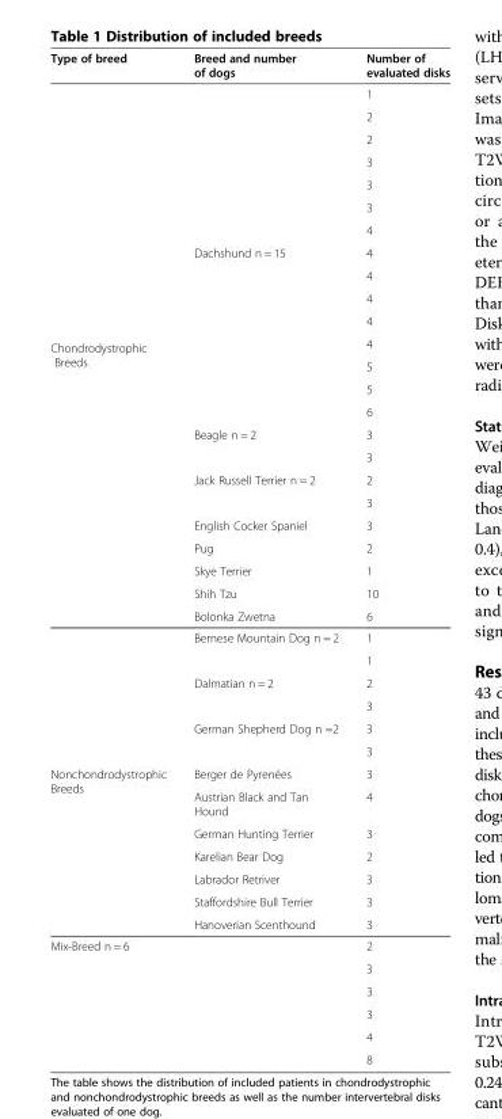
<table><thead><tr><td>Type of breed</td><td>Breed and number of dogs</td><td>Number of evaluated disks</td></tr></thead><tbody><tr><td rowspan="24">Chondrodystrophic Breeds</td><td rowspan="15">Dachshund n = 15</td><td>1</td></tr><tr><td>2</td></tr><tr><td>2</td></tr><tr><td>3</td></tr><tr><td>3</td></tr><tr><td>3</td></tr><tr><td>4</td></tr><tr><td>4</td></tr><tr><td>4</td></tr><tr><td>4</td></tr><tr><td>4</td></tr><tr><td>4</td></tr><tr><td>5</td></tr><tr><td>5</td></tr><tr><td>6</td></tr><tr><td rowspan="2">Beagle n = 2</td><td>3</td></tr><tr><td>3</td></tr><tr><td rowspan="2">Jack Russell Terrier n = 2</td><td>2</td></tr><tr><td>3</td></tr><tr><td>English Cocker Spaniel</td><td>3</td></tr><tr><td>Pug</td><td>2</td></tr><tr><td>Skye Terrier</td><td>1</td></tr><tr><td>Shih Tzu</td><td>10</td></tr><tr><td>Bolonka Zwetna</td><td>6</td></tr><tr><td rowspan="13">Nonchondrodystrophic Breeds</td><td rowspan="2">Bernese Mountain Dog n = 2</td><td>1</td></tr><tr><td>1</td></tr><tr><td rowspan="2">Dalmatian n = 2</td><td>2</td></tr><tr><td>3</td></tr><tr><td rowspan="2">German Shepherd Dog n =2</td><td>3</td></tr><tr><td>3</td></tr><tr><td>Berger de Pyrenées</td><td>3</td></tr><tr><td>Austrian Black and Tan Hound</td><td>4</td></tr><tr><td>German Hunting Terrier</td><td>3</td></tr><tr><td>Karelian Bear Dog</td><td>2</td></tr><tr><td>Labrador Retriver</td><td>3</td></tr><tr><td>Staffordshire Bull Terrier</td><td>3</td></tr><tr><td>Hanoverian Scenthound</td><td>3</td></tr><tr><td rowspan="6" colspan="2">Mix-Breed n = 6</td><td>2</td></tr><tr><td>3</td></tr><tr><td>3</td></tr><tr><td>3</td></tr><tr><td>4</td></tr><tr><td>8</td></tr></tbody></table>